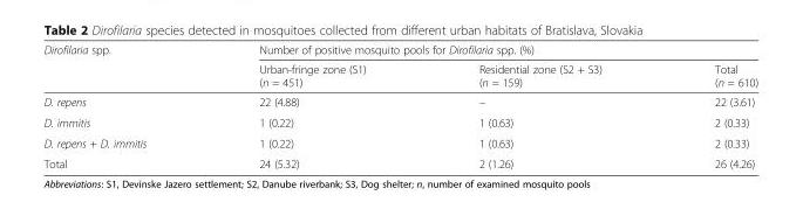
<table><thead><tr><td rowspan="2">Dirofilaria spp.</td><td colspan="3">Number of positive mosquito pools for Dirofilaria spp. (%)</td></tr><tr><td>Urban-fringe zone (S1) (n = 451)</td><td>Residential zone (S2 + S3) (n = 159)</td><td>Total (n = 610)</td></tr></thead><tbody><tr><td>D. repens</td><td>22 (4.88)</td><td>–</td><td>22 (3.61)</td></tr><tr><td>D. immitis</td><td>1 (0.22)</td><td>1 (0.63)</td><td>2 (0.33)</td></tr><tr><td>D. repens + D. immitis</td><td>1 (0.22)</td><td>1 (0.63)</td><td>2 (0.33)</td></tr><tr><td>Total</td><td>24 (5.32)</td><td>2 (1.26)</td><td>26 (4.26)</td></tr></tbody></table>